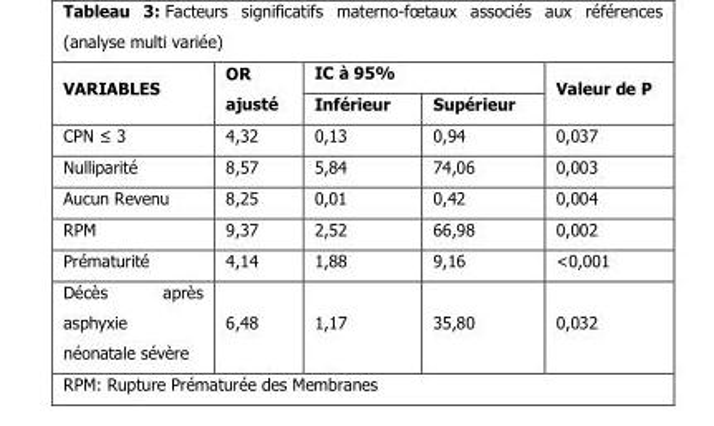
<table><thead><tr><td rowspan="2">VARIABLES</td><td rowspan="2">OR ajusté</td><td colspan="2">IC à 95%</td><td rowspan="2">Valeur de P</td></tr><tr><td>Inférieur</td><td>Supérieur</td></tr></thead><tbody><tr><td>CPN ≤ 3</td><td>4,32</td><td>0,13</td><td>0,94</td><td>0,037</td></tr><tr><td>Nulliparité</td><td>8,57</td><td>5,84</td><td>74,06</td><td>0,003</td></tr><tr><td>Aucun Revenu</td><td>8,25</td><td>0,01</td><td>0,42</td><td>0,004</td></tr><tr><td>RPM</td><td>9,37</td><td>2,52</td><td>66,98</td><td>0,002</td></tr><tr><td>Prématurité</td><td>4,14</td><td>1,88</td><td>9,16</td><td>&lt;0,001</td></tr><tr><td>Décès après asphyxie néonatale sévère</td><td>6,48</td><td>1,17</td><td>35,80</td><td>0,032</td></tr></tbody></table>